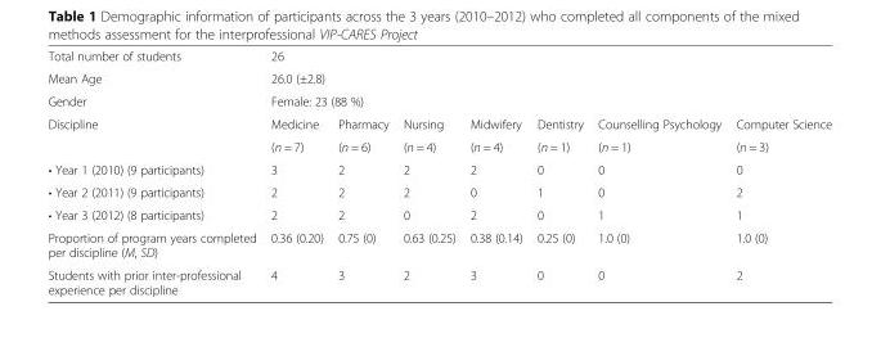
<table><tbody><tr><td>Total number of students</td><td colspan="7">26</td></tr><tr><td>Mean Age</td><td colspan="7">26.0 (±2.8)</td></tr><tr><td>Gender</td><td colspan="7">Female: 23 (88 %)</td></tr><tr><td rowspan="2">Discipline</td><td>Medicine</td><td>Pharmacy</td><td>Nursing</td><td>Midwifery</td><td>Dentistry</td><td>Counselling Psychology</td><td>Computer Science</td></tr><tr><td>(n = 7)</td><td>(n = 6)</td><td>(n = 4)</td><td>(n = 4)</td><td>(n = 1)</td><td>(n = 1)</td><td>(n = 3)</td></tr><tr><td>• Year 1 (2010) (9 participants)</td><td>3</td><td>2</td><td>2</td><td>2</td><td>0</td><td>0</td><td>0</td></tr><tr><td>• Year 2 (2011) (9 participants)</td><td>2</td><td>2</td><td>2</td><td>0</td><td>1</td><td>0</td><td>2</td></tr><tr><td>• Year 3 (2012) (8 participants)</td><td>2</td><td>2</td><td>0</td><td>2</td><td>0</td><td>1</td><td>1</td></tr><tr><td>Proportion of program years completed per discipline (M, SD)</td><td>0.36 (0.20)</td><td>0.75 (0)</td><td>0.63 (0.25)</td><td>0.38 (0.14)</td><td>0.25 (0)</td><td>1.0 (0)</td><td>1.0 (0)</td></tr><tr><td>Students with prior inter-professional experience per discipline</td><td>4</td><td>3</td><td>2</td><td>3</td><td>0</td><td>0</td><td>2</td></tr></tbody></table>